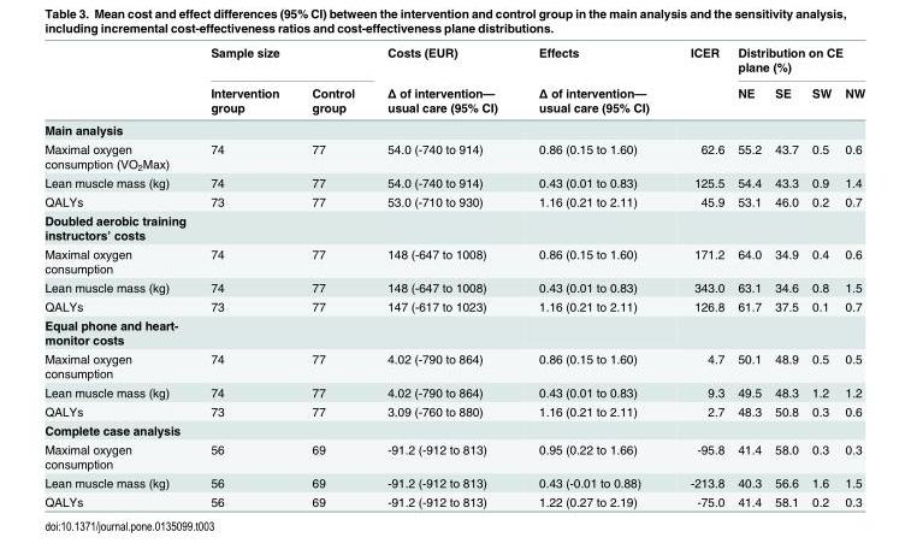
<table><thead><tr><td rowspan="2"></td><td colspan="2">Sample size</td><td rowspan="2">Costs (EUR) Δ of intervention— usual care (95% CI)</td><td rowspan="2">Effects Δ of intervention— usual care (95% CI)</td><td rowspan="2">ICER</td><td colspan="4">Distribution on CE plane (%)</td></tr><tr><td>Intervention group</td><td>Control group</td><td>NE</td><td>SE</td><td>SW</td><td>NW</td></tr></thead><tbody><tr><td colspan="10">Main analysis</td></tr><tr><td>Maximal oxygen consumption (VO<sub>2</sub>Max)</td><td>74</td><td>77</td><td>54.0 (-740 to 914)</td><td>0.86 (0.15 to 1.60)</td><td>62.6</td><td>55.2</td><td>43.7</td><td>0.5</td><td>0.6</td></tr><tr><td>Lean muscle mass (kg)</td><td>74</td><td>77</td><td>54.0 (-740 to 914)</td><td>0.43 (0.01 to 0.83)</td><td>125.5</td><td>54.4</td><td>43.3</td><td>0.9</td><td>1.4</td></tr><tr><td>QALYs</td><td>73</td><td>77</td><td>53.0 (-710 to 930)</td><td>1.16 (0.21 to 2.11)</td><td>45.9</td><td>53.1</td><td>46.0</td><td>0.2</td><td>0.7</td></tr><tr><td colspan="10">Doubled aerobic training instructors’ costs</td></tr><tr><td>Maximal oxygen consumption</td><td>74</td><td>77</td><td>148 (-647 to 1008)</td><td>0.86 (0.15 to 1.60)</td><td>171.2</td><td>64.0</td><td>34.9</td><td>0.4</td><td>0.6</td></tr><tr><td>Lean muscle mass (kg)</td><td>74</td><td>77</td><td>148 (-647 to 1008)</td><td>0.43 (0.01 to 0.83)</td><td>343.0</td><td>63.1</td><td>34.6</td><td>0.8</td><td>1.5</td></tr><tr><td>QALYs</td><td>73</td><td>77</td><td>147 (-617 to 1023)</td><td>1.16 (0.21 to 2.11)</td><td>126.8</td><td>61.7</td><td>37.5</td><td>0.1</td><td>0.7</td></tr><tr><td colspan="10">Equal phone and heart- monitor costs</td></tr><tr><td>Maximal oxygen consumption</td><td>74</td><td>77</td><td>4.02 (-790 to 864)</td><td>0.86 (0.15 to 1.60)</td><td>4.7</td><td>50.1</td><td>48.9</td><td>0.5</td><td>0.5</td></tr><tr><td>Lean muscle mass (kg)</td><td>74</td><td>77</td><td>4.02 (-790 to 864)</td><td>0.43 (0.01 to 0.83)</td><td>9.3</td><td>49.5</td><td>48.3</td><td>1.2</td><td>1.2</td></tr><tr><td>QALYs</td><td>73</td><td>77</td><td>3.09 (-760 to 880)</td><td>1.16 (0.21 to 2.11)</td><td>2.7</td><td>48.3</td><td>50.8</td><td>0.3</td><td>0.6</td></tr><tr><td colspan="10">Complete case analysis</td></tr><tr><td>Maximal oxygen consumption</td><td>56</td><td>69</td><td>-91.2 (-912 to 813)</td><td>0.95 (0.22 to 1.66)</td><td>-95.8</td><td>41.4</td><td>58.0</td><td>0.3</td><td>0.3</td></tr><tr><td>Lean muscle mass (kg)</td><td>56</td><td>69</td><td>-91.2 (-912 to 813)</td><td>0.43 (-0.01 to 0.88)</td><td>-213.8</td><td>40.3</td><td>56.6</td><td>1.6</td><td>1.5</td></tr><tr><td>QALYs</td><td>56</td><td>69</td><td>-91.2 (-912 to 813)</td><td>1.22 (0.27 to 2.19)</td><td>-75.0</td><td>41.4</td><td>58.1</td><td>0.2</td><td>0.3</td></tr></tbody></table>